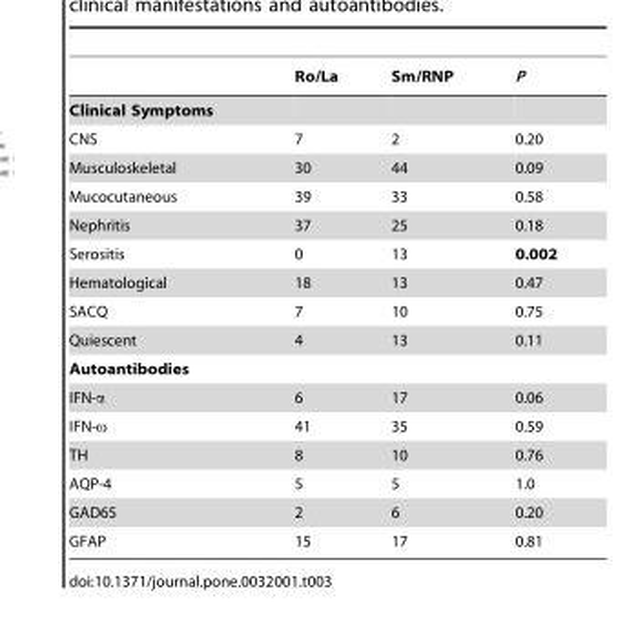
<table><thead><tr><td></td><td>Ro/La</td><td>Sm/RNP</td><td>P</td></tr></thead><tbody><tr><td colspan="4">Clinical Symptoms</td></tr><tr><td>CNS</td><td>7</td><td>2</td><td>0.20</td></tr><tr><td>Musculoskeletal</td><td>30</td><td>44</td><td>0.09</td></tr><tr><td>Mucocutaneous</td><td>39</td><td>33</td><td>0.58</td></tr><tr><td>Nephritis</td><td>37</td><td>25</td><td>0.18</td></tr><tr><td>Serositis</td><td>0</td><td>13</td><td>0.002</td></tr><tr><td>Hematological</td><td>18</td><td>13</td><td>0.47</td></tr><tr><td>SACQ</td><td>7</td><td>10</td><td>0.75</td></tr><tr><td>Quiescent</td><td>4</td><td>13</td><td>0.11</td></tr><tr><td colspan="4">Autoantibodies</td></tr><tr><td>IFN-α</td><td>6</td><td>17</td><td>0.06</td></tr><tr><td>IFN-ω</td><td>41</td><td>35</td><td>0.59</td></tr><tr><td>TH</td><td>8</td><td>10</td><td>0.76</td></tr><tr><td>AQP-4</td><td>5</td><td>5</td><td>1.0</td></tr><tr><td>GAD65</td><td>2</td><td>6</td><td>0.20</td></tr><tr><td>GFAP</td><td>15</td><td>17</td><td>0.81</td></tr></tbody></table>